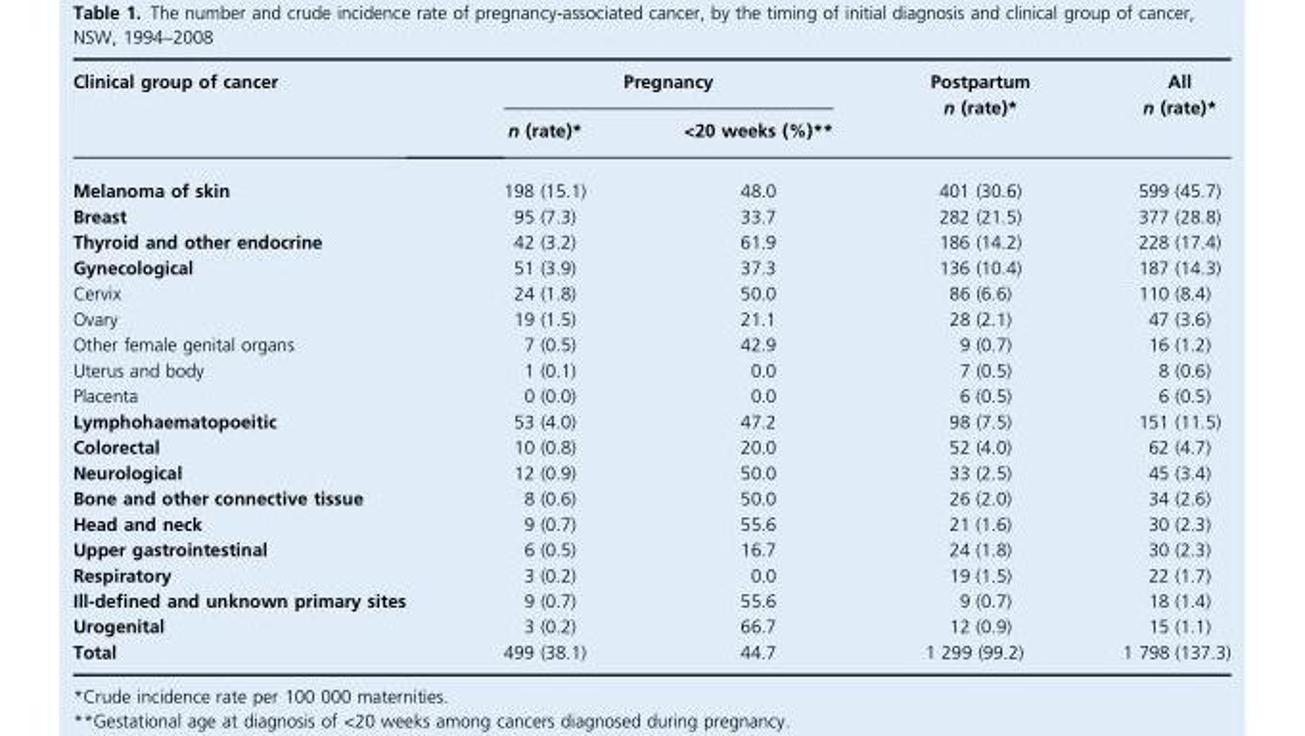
<table><thead><tr><td rowspan="2">Clinical group of cancer</td><td colspan="2">Pregnancy</td><td rowspan="2">Postpartum n (rate)*</td><td rowspan="2">All n (rate)*</td></tr><tr><td>n (rate)*</td><td>&lt;20 weeks (%)**</td></tr></thead><tbody><tr><td>Melanoma of skin</td><td>198 (15.1)</td><td>48.0</td><td>401 (30.6)</td><td>599 (45.7)</td></tr><tr><td>Breast</td><td>95 (7.3)</td><td>33.7</td><td>282 (21.5)</td><td>377 (28.8)</td></tr><tr><td>Thyroid and other endocrine</td><td>42 (3.2)</td><td>61.9</td><td>186 (14.2)</td><td>228 (17.4)</td></tr><tr><td>Gynecological</td><td>51 (3.9)</td><td>37.3</td><td>136 (10.4)</td><td>187 (14.3)</td></tr><tr><td>Cervix</td><td>24 (1.8)</td><td>50.0</td><td>86 (6.6)</td><td>110 (8.4)</td></tr><tr><td>Ovary</td><td>19 (1.5)</td><td>21.1</td><td>28 (2.1)</td><td>47 (3.6)</td></tr><tr><td>Other female genital organs</td><td>7 (0.5)</td><td>42.9</td><td>9 (0.7)</td><td>16 (1.2)</td></tr><tr><td>Uterus and body</td><td>1 (0.1)</td><td>0.0</td><td>7 (0.5)</td><td>8 (0.6)</td></tr><tr><td>Placenta</td><td>0 (0.0)</td><td>0.0</td><td>6 (0.5)</td><td>6 (0.5)</td></tr><tr><td>Lymphohaematopoeitic</td><td>53 (4.0)</td><td>47.2</td><td>98 (7.5)</td><td>151 (11.5)</td></tr><tr><td>Colorectal</td><td>10 (0.8)</td><td>20.0</td><td>52 (4.0)</td><td>62 (4.7)</td></tr><tr><td>Neurological</td><td>12 (0.9)</td><td>50.0</td><td>33 (2.5)</td><td>45 (3.4)</td></tr><tr><td>Bone and other connective tissue</td><td>8 (0.6)</td><td>50.0</td><td>26 (2.0)</td><td>34 (2.6)</td></tr><tr><td>Head and neck</td><td>9 (0.7)</td><td>55.6</td><td>21 (1.6)</td><td>30 (2.3)</td></tr><tr><td>Upper gastrointestinal</td><td>6 (0.5)</td><td>16.7</td><td>24 (1.8)</td><td>30 (2.3)</td></tr><tr><td>Respiratory</td><td>3 (0.2)</td><td>0.0</td><td>19 (1.5)</td><td>22 (1.7)</td></tr><tr><td>Ill-defined and unknown primary sites</td><td>9 (0.7)</td><td>55.6</td><td>9 (0.7)</td><td>18 (1.4)</td></tr><tr><td>Urogenital</td><td>3 (0.2)</td><td>66.7</td><td>12 (0.9)</td><td>15 (1.1)</td></tr><tr><td>Total</td><td>499 (38.1)</td><td>44.7</td><td>1 299 (99.2)</td><td>1 798 (137.3)</td></tr></tbody></table>